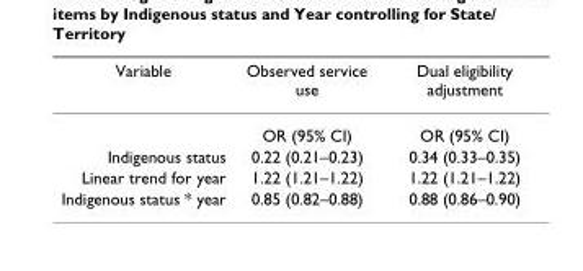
<table><thead><tr><td>Variable</td><td>Observed service use</td><td>Dual eligibility adjustment</td></tr></thead><tbody><tr><td></td><td>OR (95% CI)</td><td>OR (95% CI)</td></tr><tr><td>Indigenous status</td><td>0.22 (0.21–0.23)</td><td>0.34 (0.33–0.35)</td></tr><tr><td>Linear trend for year</td><td>1.22 (1.21–1.22)</td><td>1.22 (1.21–1.22)</td></tr><tr><td>Indigenous status * year</td><td>0.85 (0.82–0.88)</td><td>0.88 (0.86–0.90)</td></tr></tbody></table>